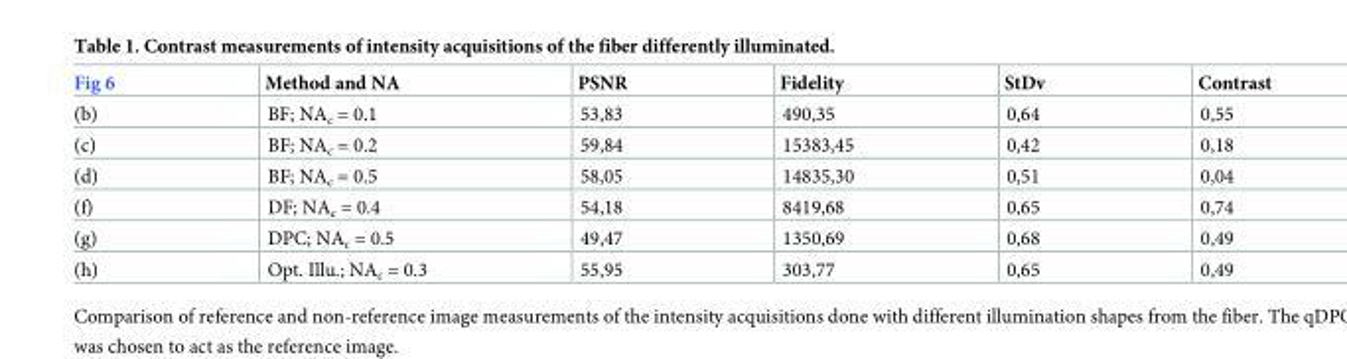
<table><thead><tr><td>Fig 6</td><td>Method and NA</td><td>PSNR</td><td>Fidelity</td><td>StDv</td><td>Contrast</td></tr></thead><tbody><tr><td>(b)</td><td>BF; NA<sub>c</sub> = 0.1</td><td>53,83</td><td>490,35</td><td>0,64</td><td>0,55</td></tr><tr><td>(c)</td><td>BF; NA<sub>c</sub> = 0.2</td><td>59,84</td><td>15383,45</td><td>0,42</td><td>0,18</td></tr><tr><td>(d)</td><td>BF; NA<sub>c</sub> = 0.5</td><td>58,05</td><td>14835,30</td><td>0,51</td><td>0,04</td></tr><tr><td>(f)</td><td>DF; NA<sub>c</sub> = 0.4</td><td>54,18</td><td>8419,68</td><td>0,65</td><td>0,74</td></tr><tr><td>(g)</td><td>DPC; NA<sub>c</sub> = 0.5</td><td>49,47</td><td>1350,69</td><td>0,68</td><td>0,49</td></tr><tr><td>(h)</td><td>Opt. Illu.; NA<sub>c</sub> = 0.3</td><td>55,95</td><td>303,77</td><td>0,65</td><td>0,49</td></tr></tbody></table>